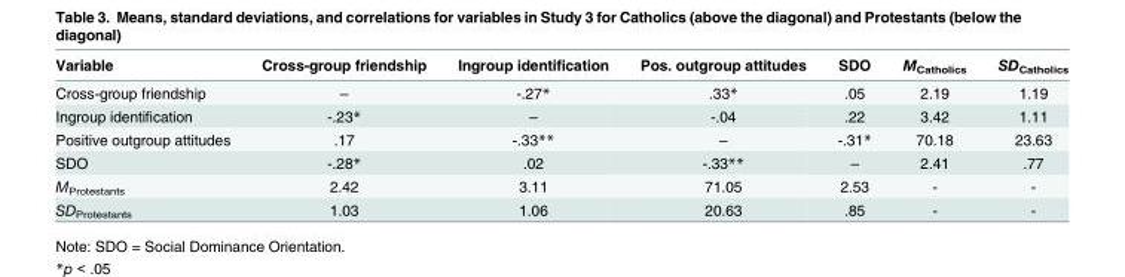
<table><thead><tr><td>Variable</td><td>Cross-group friendship</td><td>Ingroup identification</td><td>Pos. outgroup attitudes</td><td>SDO</td><td>M<sub>Catholics</sub></td><td>SD<sub>Catholics</sub></td></tr></thead><tbody><tr><td>Cross-group friendship</td><td>–</td><td>-.27*</td><td>.33*</td><td>.05</td><td>2.19</td><td>1.19</td></tr><tr><td>Ingroup identification</td><td>-.23*</td><td>–</td><td>-.04</td><td>.22</td><td>3.42</td><td>1.11</td></tr><tr><td>Positive outgroup attitudes</td><td>.17</td><td>-.33**</td><td>–</td><td>-.31*</td><td>70.18</td><td>23.63</td></tr><tr><td>SDO</td><td>-.28*</td><td>.02</td><td>-.33**</td><td>–</td><td>2.41</td><td>.77</td></tr><tr><td>M<sub>Protestants</sub></td><td>2.42</td><td>3.11</td><td>71.05</td><td>2.53</td><td>-</td><td>-</td></tr><tr><td>SD<sub>Protestants</sub></td><td>1.03</td><td>1.06</td><td>20.63</td><td>.85</td><td>-</td><td>-</td></tr></tbody></table>